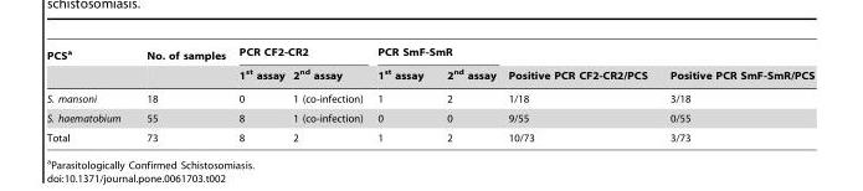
<table><thead><tr><td rowspan="2">PCS<sup>a</sup></td><td rowspan="2">No. of samples</td><td colspan="2">PCR CF2-CR2</td><td colspan="2">PCR SmF-SmR</td><td rowspan="2">Positive PCR CF2-CR2/PCS</td><td rowspan="2">Positive PCR SmF-SmR/PCS</td></tr><tr><td>1<sup>st</sup> assay</td><td>2<sup>nd</sup> assay</td><td>1<sup>st</sup> assay</td><td>2<sup>nd</sup> assay</td></tr></thead><tbody><tr><td>S. mansoni</td><td>18</td><td>0</td><td>1 (co-infection)</td><td>1</td><td>2</td><td>1/18</td><td>3/18</td></tr><tr><td>S. haematobium</td><td>55</td><td>8</td><td>1 (co-infection)</td><td>0</td><td>0</td><td>9/55</td><td>0/55</td></tr><tr><td>Total</td><td>73</td><td>8</td><td>2</td><td>1</td><td>2</td><td>10/73</td><td>3/73</td></tr></tbody></table>